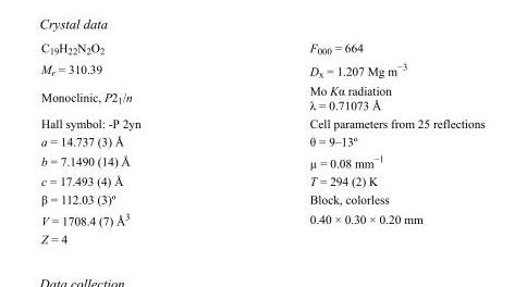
<table><tbody><tr><td>C<sub>19</sub>H<sub>22</sub>N<sub>2</sub>O<sub>2</sub></td><td>F<sub>000</sub> = 664</td></tr><tr><td>M<sub>r</sub> = 310.39</td><td>D<sub>x</sub> = 1.207 Mg m<sup>−3</sup></td></tr><tr><td>Monoclinic, P2<sub>1</sub>/n</td><td>Mo Kα radiation λ = 0.71073 Å</td></tr><tr><td>Hall symbol: -P 2yn</td><td>Cell parameters from 25 reflections</td></tr><tr><td>a = 14.737 (3) Å</td><td>θ = 9–13º</td></tr><tr><td>b = 7.1490 (14) Å</td><td>µ = 0.08 mm<sup>−1</sup></td></tr><tr><td>c = 17.493 (4) Å</td><td>T = 294 (2) K</td></tr><tr><td>β = 112.03 (3)º</td><td>Block, colorless</td></tr><tr><td>V = 1708.4 (7) Å<sup>3</sup></td><td>0.40 × 0.30 × 0.20 mm</td></tr><tr><td>Z = 4</td><td></td></tr></tbody></table>